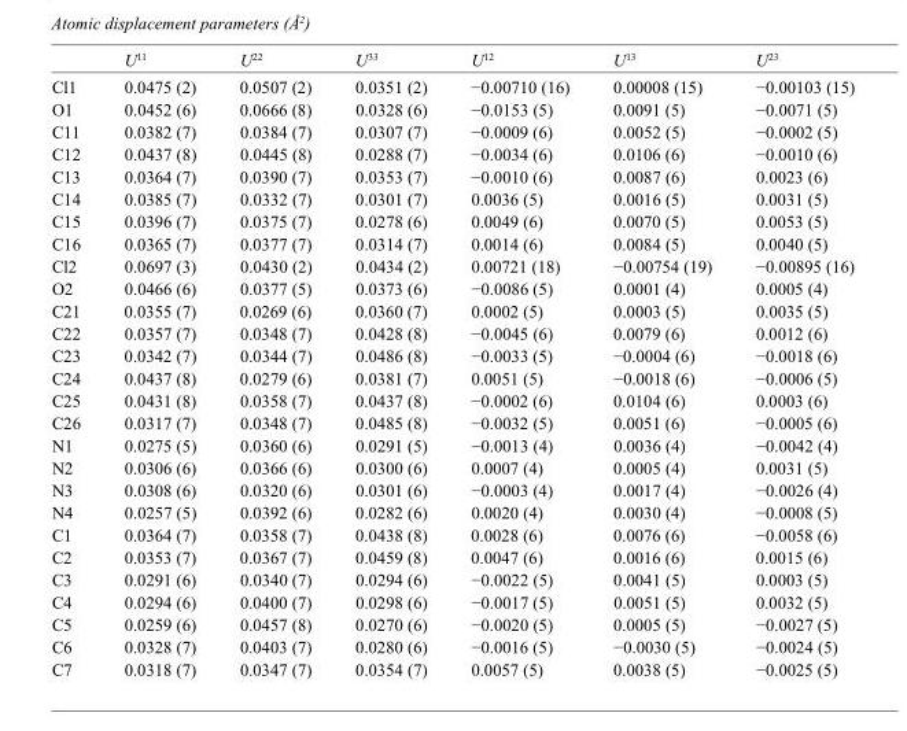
<table><thead><tr><td></td><td>U<sup>11</sup></td><td>U<sup>22</sup></td><td>U<sup>33</sup></td><td>U<sup>12</sup></td><td>U<sup>13</sup></td><td>U<sup>23</sup></td></tr></thead><tbody><tr><td>Cl1</td><td>0.0475 (2)</td><td>0.0507 (2)</td><td>0.0351 (2)</td><td>−0.00710 (16)</td><td>0.00008 (15)</td><td>−0.00103 (15)</td></tr><tr><td>O1</td><td>0.0452 (6)</td><td>0.0666 (8)</td><td>0.0328 (6)</td><td>−0.0153 (5)</td><td>0.0091 (5)</td><td>−0.0071 (5)</td></tr><tr><td>C11</td><td>0.0382 (7)</td><td>0.0384 (7)</td><td>0.0307 (7)</td><td>−0.0009 (6)</td><td>0.0052 (5)</td><td>−0.0002 (5)</td></tr><tr><td>C12</td><td>0.0437 (8)</td><td>0.0445 (8)</td><td>0.0288 (7)</td><td>−0.0034 (6)</td><td>0.0106 (6)</td><td>−0.0010 (6)</td></tr><tr><td>C13</td><td>0.0364 (7)</td><td>0.0390 (7)</td><td>0.0353 (7)</td><td>−0.0010 (6)</td><td>0.0087 (6)</td><td>0.0023 (6)</td></tr><tr><td>C14</td><td>0.0385 (7)</td><td>0.0332 (7)</td><td>0.0301 (7)</td><td>0.0036 (5)</td><td>0.0016 (5)</td><td>0.0031 (5)</td></tr><tr><td>C15</td><td>0.0396 (7)</td><td>0.0375 (7)</td><td>0.0278 (6)</td><td>0.0049 (6)</td><td>0.0070 (5)</td><td>0.0053 (5)</td></tr><tr><td>C16</td><td>0.0365 (7)</td><td>0.0377 (7)</td><td>0.0314 (7)</td><td>0.0014 (6)</td><td>0.0084 (5)</td><td>0.0040 (5)</td></tr><tr><td>Cl2</td><td>0.0697 (3)</td><td>0.0430 (2)</td><td>0.0434 (2)</td><td>0.00721 (18)</td><td>−0.00754 (19)</td><td>−0.00895 (16)</td></tr><tr><td>O2</td><td>0.0466 (6)</td><td>0.0377 (5)</td><td>0.0373 (6)</td><td>−0.0086 (5)</td><td>0.0001 (4)</td><td>0.0005 (4)</td></tr><tr><td>C21</td><td>0.0355 (7)</td><td>0.0269 (6)</td><td>0.0360 (7)</td><td>0.0002 (5)</td><td>0.0003 (5)</td><td>0.0035 (5)</td></tr><tr><td>C22</td><td>0.0357 (7)</td><td>0.0348 (7)</td><td>0.0428 (8)</td><td>−0.0045 (6)</td><td>0.0079 (6)</td><td>0.0012 (6)</td></tr><tr><td>C23</td><td>0.0342 (7)</td><td>0.0344 (7)</td><td>0.0486 (8)</td><td>−0.0033 (5)</td><td>−0.0004 (6)</td><td>−0.0018 (6)</td></tr><tr><td>C24</td><td>0.0437 (8)</td><td>0.0279 (6)</td><td>0.0381 (7)</td><td>0.0051 (5)</td><td>−0.0018 (6)</td><td>−0.0006 (5)</td></tr><tr><td>C25</td><td>0.0431 (8)</td><td>0.0358 (7)</td><td>0.0437 (8)</td><td>−0.0002 (6)</td><td>0.0104 (6)</td><td>0.0003 (6)</td></tr><tr><td>C26</td><td>0.0317 (7)</td><td>0.0348 (7)</td><td>0.0485 (8)</td><td>−0.0032 (5)</td><td>0.0051 (6)</td><td>−0.0005 (6)</td></tr><tr><td>N1</td><td>0.0275 (5)</td><td>0.0360 (6)</td><td>0.0291 (5)</td><td>−0.0013 (4)</td><td>0.0036 (4)</td><td>−0.0042 (4)</td></tr><tr><td>N2</td><td>0.0306 (6)</td><td>0.0366 (6)</td><td>0.0300 (6)</td><td>0.0007 (4)</td><td>0.0005 (4)</td><td>0.0031 (5)</td></tr><tr><td>N3</td><td>0.0308 (6)</td><td>0.0320 (6)</td><td>0.0301 (6)</td><td>−0.0003 (4)</td><td>0.0017 (4)</td><td>−0.0026 (4)</td></tr><tr><td>N4</td><td>0.0257 (5)</td><td>0.0392 (6)</td><td>0.0282 (6)</td><td>0.0020 (4)</td><td>0.0030 (4)</td><td>−0.0008 (5)</td></tr><tr><td>C1</td><td>0.0364 (7)</td><td>0.0358 (7)</td><td>0.0438 (8)</td><td>0.0028 (6)</td><td>0.0076 (6)</td><td>−0.0058 (6)</td></tr><tr><td>C2</td><td>0.0353 (7)</td><td>0.0367 (7)</td><td>0.0459 (8)</td><td>0.0047 (6)</td><td>0.0016 (6)</td><td>0.0015 (6)</td></tr><tr><td>C3</td><td>0.0291 (6)</td><td>0.0340 (7)</td><td>0.0294 (6)</td><td>−0.0022 (5)</td><td>0.0041 (5)</td><td>0.0003 (5)</td></tr><tr><td>C4</td><td>0.0294 (6)</td><td>0.0400 (7)</td><td>0.0298 (6)</td><td>−0.0017 (5)</td><td>0.0051 (5)</td><td>0.0032 (5)</td></tr><tr><td>C5</td><td>0.0259 (6)</td><td>0.0457 (8)</td><td>0.0270 (6)</td><td>−0.0020 (5)</td><td>0.0005 (5)</td><td>−0.0027 (5)</td></tr><tr><td>C6</td><td>0.0328 (7)</td><td>0.0403 (7)</td><td>0.0280 (6)</td><td>−0.0016 (5)</td><td>−0.0030 (5)</td><td>−0.0024 (5)</td></tr><tr><td>C7</td><td>0.0318 (7)</td><td>0.0347 (7)</td><td>0.0354 (7)</td><td>0.0057 (5)</td><td>0.0038 (5)</td><td>−0.0025 (5)</td></tr></tbody></table>